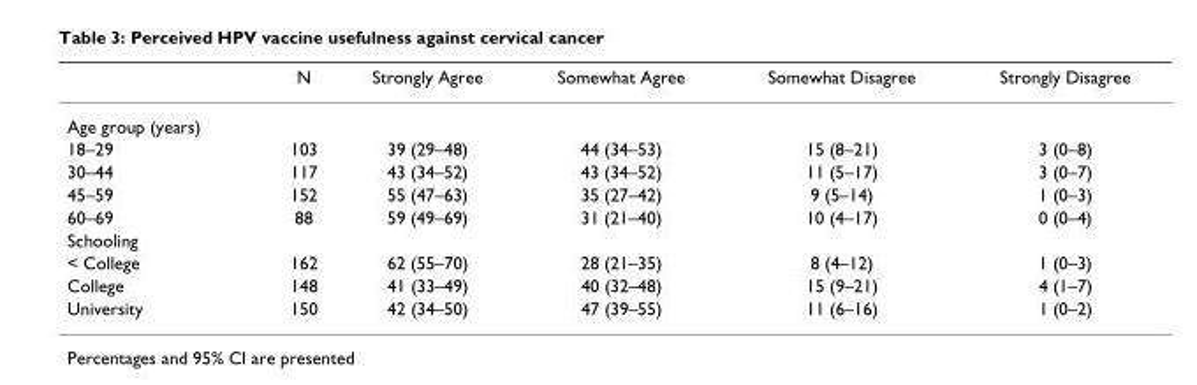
<table><thead><tr><td></td><td>N</td><td>Strongly Agree</td><td>Somewhat Agree</td><td>Somewhat Disagree</td><td>Strongly Disagree</td></tr></thead><tbody><tr><td colspan="6">Age group (years)</td></tr><tr><td>18–29</td><td>103</td><td>39 (29–48)</td><td>44 (34–53)</td><td>15 (8–21)</td><td>3 (0–8)</td></tr><tr><td>30–44</td><td>117</td><td>43 (34–52)</td><td>43 (34–52)</td><td>11 (5–17)</td><td>3 (0–7)</td></tr><tr><td>45–59</td><td>152</td><td>55 (47–63)</td><td>35 (27–42)</td><td>9 (5–14)</td><td>1 (0–3)</td></tr><tr><td>60–69</td><td>88</td><td>59 (49–69)</td><td>31 (21–40)</td><td>10 (4–17)</td><td>0 (0–4)</td></tr><tr><td colspan="6">Schooling</td></tr><tr><td>&lt; College</td><td>162</td><td>62 (55–70)</td><td>28 (21–35)</td><td>8 (4–12)</td><td>1 (0–3)</td></tr><tr><td>College</td><td>148</td><td>41 (33–49)</td><td>40 (32–48)</td><td>15 (9–21)</td><td>4 (1–7)</td></tr><tr><td>University</td><td>150</td><td>42 (34–50)</td><td>47 (39–55)</td><td>11 (6–16)</td><td>1 (0–2)</td></tr></tbody></table>